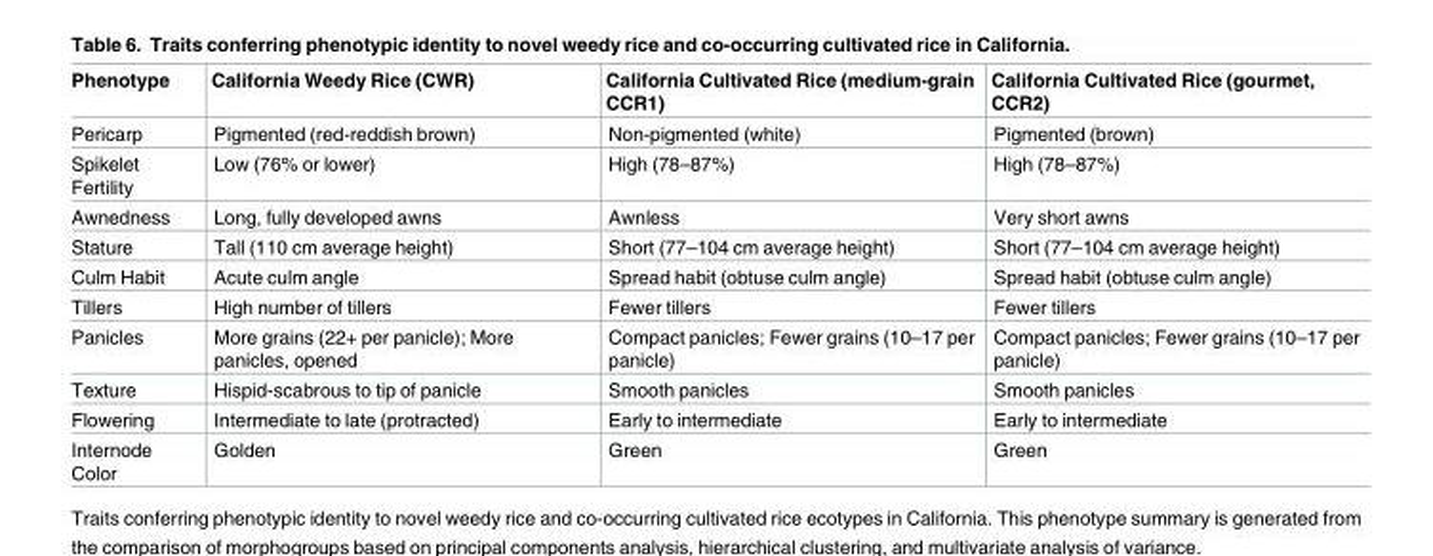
<table><thead><tr><td>Phenotype</td><td>California Weedy Rice (CWR)</td><td>California Cultivated Rice (medium-grain CCR1)</td><td>California Cultivated Rice (gourmet, CCR2)</td></tr></thead><tbody><tr><td>Pericarp</td><td>Pigmented (red-reddish brown)</td><td>Non-pigmented (white)</td><td>Pigmented (brown)</td></tr><tr><td>Spikelet Fertility</td><td>Low (76% or lower)</td><td>High (78–87%)</td><td>High (78–87%)</td></tr><tr><td>Awnedness</td><td>Long, fully developed awns</td><td>Awnless</td><td>Very short awns</td></tr><tr><td>Stature</td><td>Tall (110 cm average height)</td><td>Short (77–104 cm average height)</td><td>Short (77–104 cm average height)</td></tr><tr><td>Culm Habit</td><td>Acute culm angle</td><td>Spread habit (obtuse culm angle)</td><td>Spread habit (obtuse culm angle)</td></tr><tr><td>Tillers</td><td>High number of tillers</td><td>Fewer tillers</td><td>Fewer tillers</td></tr><tr><td>Panicles</td><td>More grains (22+ per panicle); More panicles, opened</td><td>Compact panicles; Fewer grains (10–17 per panicle)</td><td>Compact panicles; Fewer grains (10–17 per panicle)</td></tr><tr><td>Texture</td><td>Hispid-scabrous to tip of panicle</td><td>Smooth panicles</td><td>Smooth panicles</td></tr><tr><td>Flowering</td><td>Intermediate to late (protracted)</td><td>Early to intermediate</td><td>Early to intermediate</td></tr><tr><td>Internode Color</td><td>Golden</td><td>Green</td><td>Green</td></tr></tbody></table>